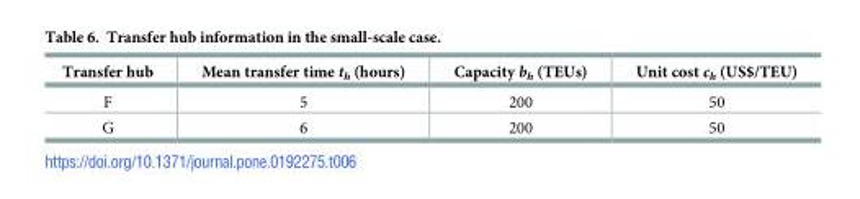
<table><thead><tr><td>Transfer hub</td><td>Mean transfer time t<sub>h</sub> (hours)</td><td>Capacity b<sub>h</sub> (TEUs)</td><td>Unit cost c<sub>h</sub> (US$/TEU)</td></tr></thead><tbody><tr><td>F</td><td>5</td><td>200</td><td>50</td></tr><tr><td>G</td><td>6</td><td>200</td><td>50</td></tr></tbody></table>